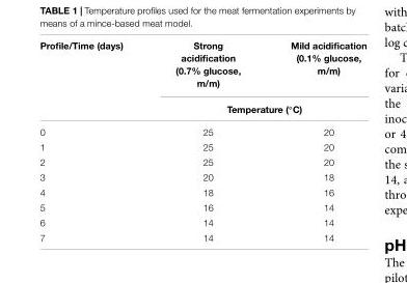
<table><thead><tr><td rowspan="2">Profile/Time (days)</td><td>Strong acidification (0.7% glucose, m/m)</td><td>Mild acidification (0.1% glucose, m/m)</td></tr><tr><td colspan="2">Temperature (◦C)</td></tr></thead><tbody><tr><td>0</td><td>25</td><td>20</td></tr><tr><td>1</td><td>25</td><td>20</td></tr><tr><td>2</td><td>25</td><td>20</td></tr><tr><td>3</td><td>20</td><td>18</td></tr><tr><td>4</td><td>18</td><td>16</td></tr><tr><td>5</td><td>16</td><td>14</td></tr><tr><td>6</td><td>14</td><td>14</td></tr><tr><td>7</td><td>14</td><td>14</td></tr></tbody></table>